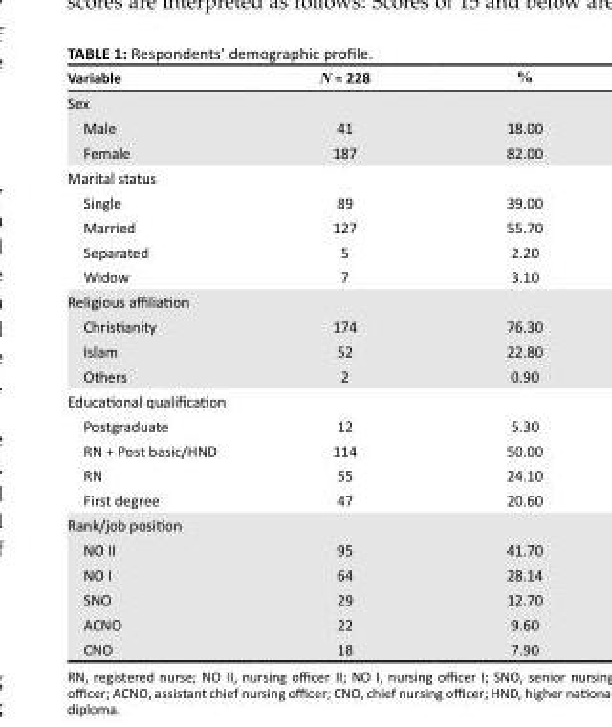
<table><thead><tr><td>Variable</td><td>N = 228</td><td>%</td></tr></thead><tbody><tr><td colspan="3">Sex</td></tr><tr><td>Male</td><td>41</td><td>18.00</td></tr><tr><td>Female</td><td>187</td><td>82.00</td></tr><tr><td colspan="3">Marital status</td></tr><tr><td>Single</td><td>89</td><td>39.00</td></tr><tr><td>Married</td><td>127</td><td>55.70</td></tr><tr><td>Separated</td><td>5</td><td>2.20</td></tr><tr><td>Widow</td><td>7</td><td>3.10</td></tr><tr><td colspan="3">Religious affiliation</td></tr><tr><td>Christianity</td><td>174</td><td>76.30</td></tr><tr><td>Islam</td><td>52</td><td>22.80</td></tr><tr><td>Others</td><td>2</td><td>0.90</td></tr><tr><td colspan="3">Educational qualification</td></tr><tr><td>Postgraduate</td><td>12</td><td>5.30</td></tr><tr><td>RN + Post basic/HND</td><td>114</td><td>50.00</td></tr><tr><td>RN</td><td>55</td><td>24.10</td></tr><tr><td>First degree</td><td>47</td><td>20.60</td></tr><tr><td colspan="3">Rank/job position</td></tr><tr><td>NO II</td><td>95</td><td>41.70</td></tr><tr><td>NO I</td><td>64</td><td>28.14</td></tr><tr><td>SNO</td><td>29</td><td>12.70</td></tr><tr><td>ACNO</td><td>22</td><td>9.60</td></tr><tr><td>CNO</td><td>18</td><td>7.90</td></tr></tbody></table>